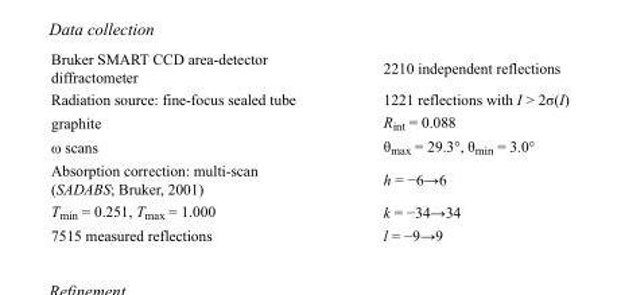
<table><tbody><tr><td>Bruker SMART CCD area-detector diffractometer</td><td>2210 independent reflections</td></tr><tr><td>Radiation source: fine-focus sealed tube</td><td>1221 reflections with I &gt; 2σ(I)</td></tr><tr><td>graphite</td><td>R<sub>int</sub> = 0.088</td></tr><tr><td>ω scans</td><td>θ<sub>max</sub> = 29.3°, θ<sub>min</sub> = 3.0°</td></tr><tr><td>Absorption correction: multi-scan (SADABS; Bruker, 2001)</td><td>h = −6→6</td></tr><tr><td>T<sub>min</sub> = 0.251, T<sub>max</sub> = 1.000</td><td>k = −34→34</td></tr><tr><td>7515 measured reflections</td><td>l = −9→9</td></tr></tbody></table>